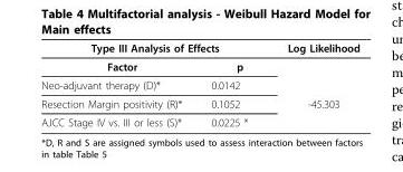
<table><thead><tr><td colspan="2">Type III Analysis of Effects</td><td rowspan="2">Log Likelihood</td></tr><tr><td>Factor</td><td>p</td></tr></thead><tbody><tr><td>Neo-adjuvant therapy (D)*</td><td>0.0142</td><td></td></tr><tr><td>Resection Margin positivity (R)*</td><td>0.1052</td><td>-45.303</td></tr><tr><td>AJCC Stage IV vs. III or less (S)*</td><td>0.0225 *</td><td></td></tr></tbody></table>